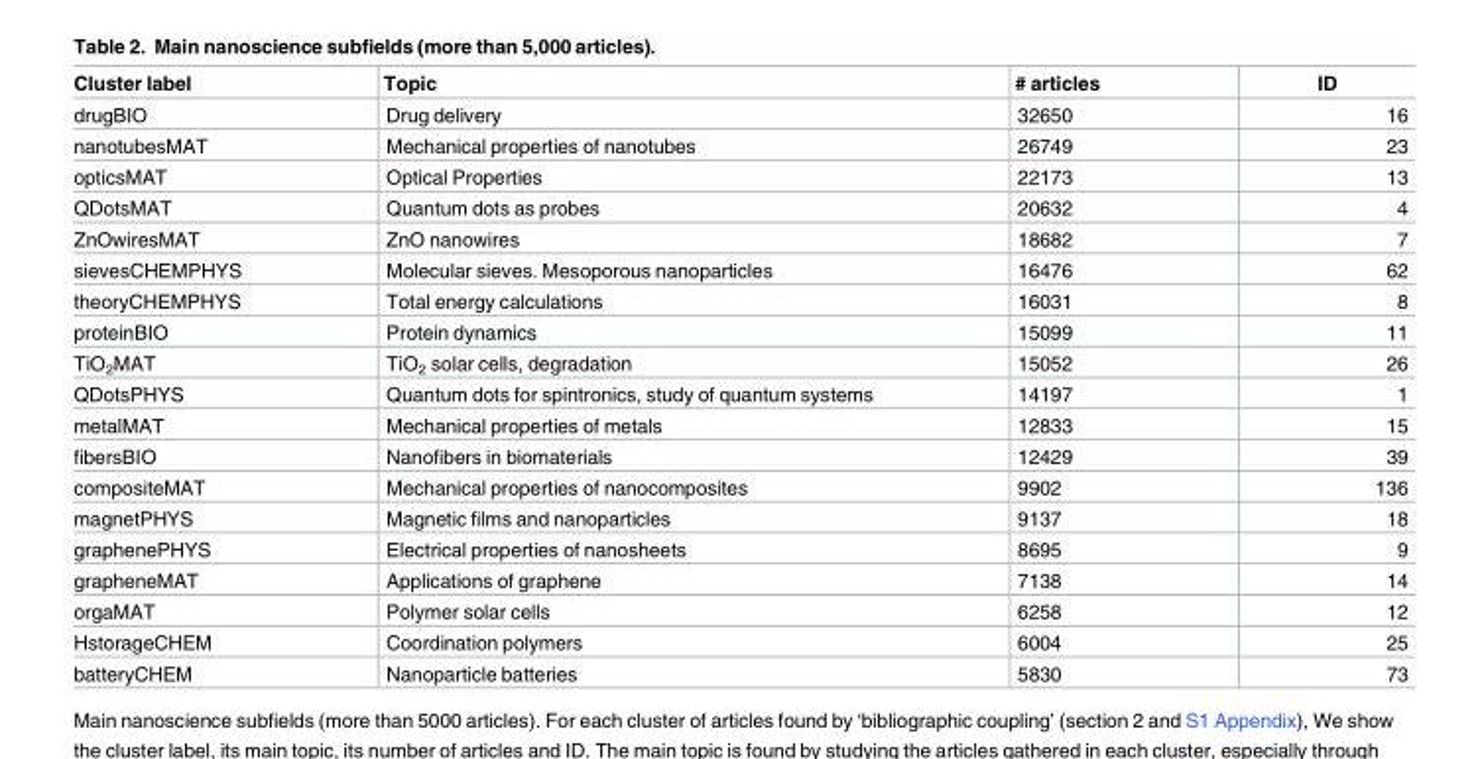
<table><thead><tr><td>Cluster label</td><td>Topic</td><td># articles</td><td>ID</td></tr></thead><tbody><tr><td>drugBIO</td><td>Drug delivery</td><td>32650</td><td>16</td></tr><tr><td>nanotubesMAT</td><td>Mechanical properties of nanotubes</td><td>26749</td><td>23</td></tr><tr><td>opticsMAT</td><td>Optical Properties</td><td>22173</td><td>13</td></tr><tr><td>QDotsMAT</td><td>Quantum dots as probes</td><td>20632</td><td>4</td></tr><tr><td>ZnOwiresMAT</td><td>ZnO nanowires</td><td>18682</td><td>7</td></tr><tr><td>sievesCHEMPHYS</td><td>Molecular sieves. Mesoporous nanoparticles</td><td>16476</td><td>62</td></tr><tr><td>theoryCHEMPHYS</td><td>Total energy calculations</td><td>16031</td><td>8</td></tr><tr><td>proteinBIO</td><td>Protein dynamics</td><td>15099</td><td>11</td></tr><tr><td>TiO<sub>2</sub>MAT</td><td>TiO<sub>2</sub> solar cells, degradation</td><td>15052</td><td>26</td></tr><tr><td>QDotsPHYS</td><td>Quantum dots for spintronics, study of quantum systems</td><td>14197</td><td>1</td></tr><tr><td>metalMAT</td><td>Mechanical properties of metals</td><td>12833</td><td>15</td></tr><tr><td>fibersBIO</td><td>Nanofibers in biomaterials</td><td>12429</td><td>39</td></tr><tr><td>compositeMAT</td><td>Mechanical properties of nanocomposites</td><td>9902</td><td>136</td></tr><tr><td>magnetPHYS</td><td>Magnetic films and nanoparticles</td><td>9137</td><td>18</td></tr><tr><td>graphenePHYS</td><td>Electrical properties of nanosheets</td><td>8695</td><td>9</td></tr><tr><td>grapheneMAT</td><td>Applications of graphene</td><td>7138</td><td>14</td></tr><tr><td>orgaMAT</td><td>Polymer solar cells</td><td>6258</td><td>12</td></tr><tr><td>HstorageCHEM</td><td>Coordination polymers</td><td>6004</td><td>25</td></tr><tr><td>batteryCHEM</td><td>Nanoparticle batteries</td><td>5830</td><td>73</td></tr></tbody></table>